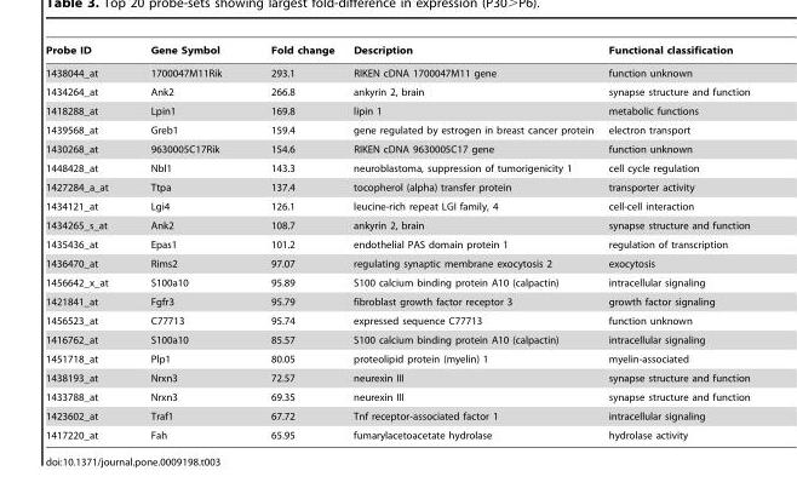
<table><thead><tr><td>Probe ID</td><td>Gene Symbol</td><td>Fold change</td><td>Description</td><td>Functional classification</td></tr></thead><tbody><tr><td>1438044_at</td><td>1700047M11Rik</td><td>293.1</td><td>RIKEN cDNA 1700047M11 gene</td><td>function unknown</td></tr><tr><td>1434264_at</td><td>Ank2</td><td>266.8</td><td>ankyrin 2, brain</td><td>synapse structure and function</td></tr><tr><td>1418288_at</td><td>Lpin1</td><td>169.8</td><td>lipin 1</td><td>metabolic functions</td></tr><tr><td>1439568_at</td><td>Greb1</td><td>159.4</td><td>gene regulated by estrogen in breast cancer protein</td><td>electron transport</td></tr><tr><td>1430268_at</td><td>9630005C17Rik</td><td>154.6</td><td>RIKEN cDNA 9630005C17 gene</td><td>function unknown</td></tr><tr><td>1448428_at</td><td>Nbl1</td><td>143.3</td><td>neuroblastoma, suppression of tumorigenicity 1</td><td>cell cycle regulation</td></tr><tr><td>1427284_a_at</td><td>Ttpa</td><td>137.4</td><td>tocopherol (alpha) transfer protein</td><td>transporter activity</td></tr><tr><td>1434121_at</td><td>Lgi4</td><td>126.1</td><td>leucine-rich repeat LGI family, 4</td><td>cell-cell interaction</td></tr><tr><td>1434265_s_at</td><td>Ank2</td><td>108.7</td><td>ankyrin 2, brain</td><td>synapse structure and function</td></tr><tr><td>1435436_at</td><td>Epas1</td><td>101.2</td><td>endothelial PAS domain protein 1</td><td>regulation of transcription</td></tr><tr><td>1436470_at</td><td>Rims2</td><td>97.07</td><td>regulating synaptic membrane exocytosis 2</td><td>exocytosis</td></tr><tr><td>1456642_x_at</td><td>S100a10</td><td>95.89</td><td>S100 calcium binding protein A10 (calpactin)</td><td>intracellular signaling</td></tr><tr><td>1421841_at</td><td>Fgfr3</td><td>95.79</td><td>fibroblast growth factor receptor 3</td><td>growth factor signaling</td></tr><tr><td>1456523_at</td><td>C77713</td><td>95.74</td><td>expressed sequence C77713</td><td>function unknown</td></tr><tr><td>1416762_at</td><td>S100a10</td><td>85.57</td><td>S100 calcium binding protein A10 (calpactin)</td><td>intracellular signaling</td></tr><tr><td>1451718_at</td><td>Plp1</td><td>80.05</td><td>proteolipid protein (myelin) 1</td><td>myelin-associated</td></tr><tr><td>1438193_at</td><td>Nrxn3</td><td>72.57</td><td>neurexin III</td><td>synapse structure and function</td></tr><tr><td>1433788_at</td><td>Nrxn3</td><td>69.35</td><td>neurexin III</td><td>synapse structure and function</td></tr><tr><td>1423602_at</td><td>Traf1</td><td>67.72</td><td>Tnf receptor-associated factor 1</td><td>intracellular signaling</td></tr><tr><td>1417220_at</td><td>Fah</td><td>65.95</td><td>fumarylacetoacetate hydrolase</td><td>hydrolase activity</td></tr></tbody></table>